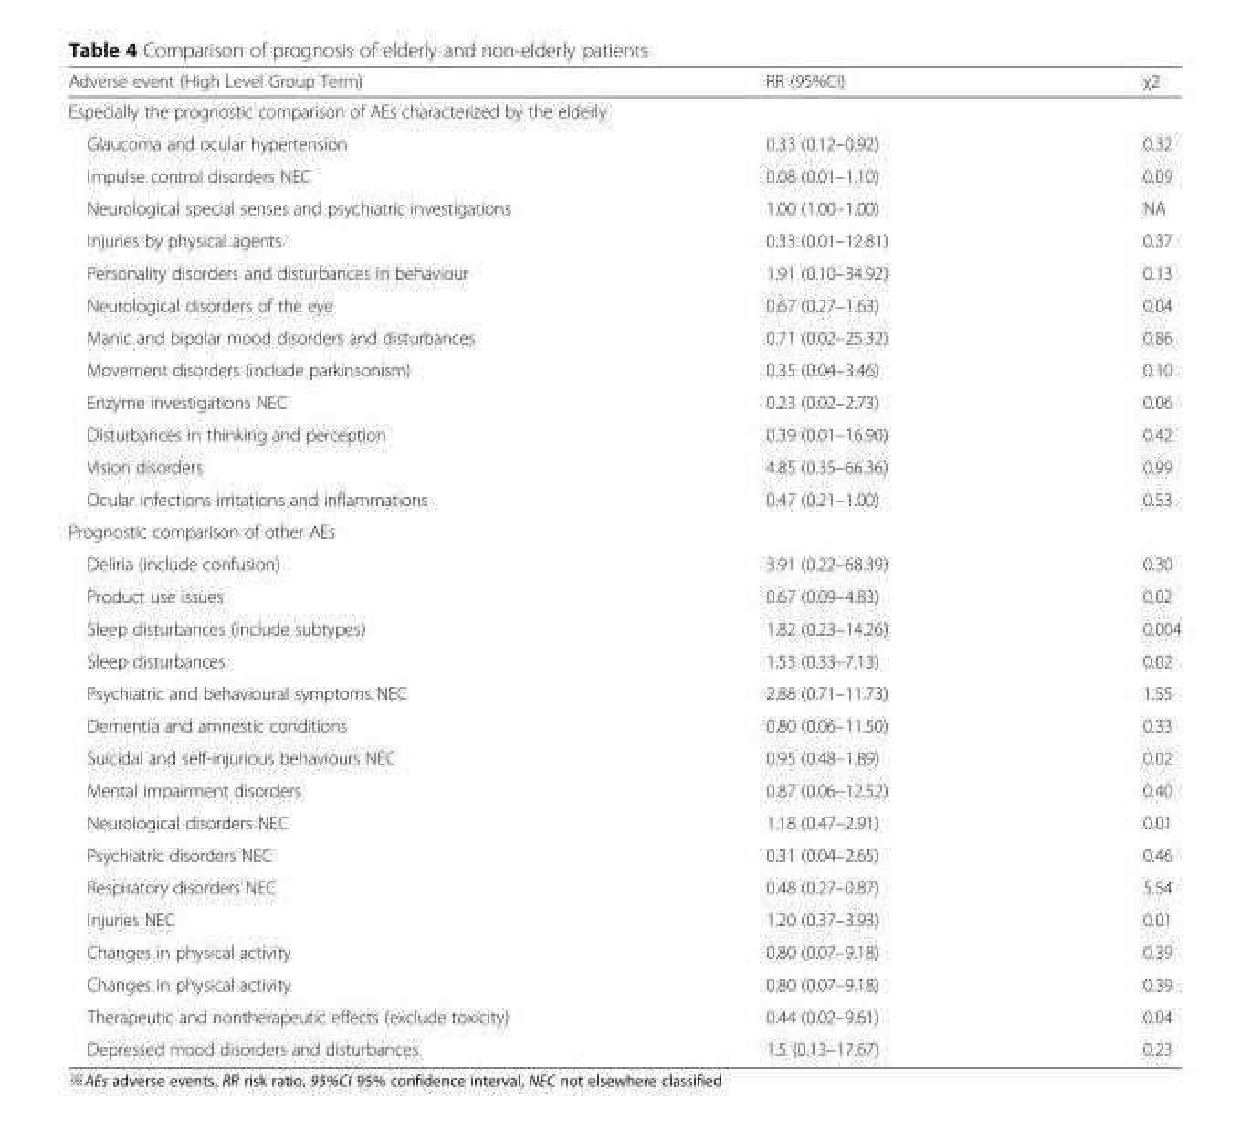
<table><thead><tr><td>Adverse event (High Level Group Term)</td><td>RR (95%CI)</td><td>χ2</td></tr></thead><tbody><tr><td colspan="3">Especially the prognostic comparison of AEs characterized by the elderly</td></tr><tr><td>Glaucoma and ocular hypertension</td><td>0.33 (0.12–0.92)</td><td>0.32</td></tr><tr><td>Impulse control disorders NEC</td><td>0.08 (0.01–1.10)</td><td>0.09</td></tr><tr><td>Neurological special senses and psychiatric investigations</td><td>1.00 (1.00–1.00)</td><td>NA</td></tr><tr><td>Injuries by physical agents</td><td>0.33 (0.01–12.81)</td><td>0.37</td></tr><tr><td>Personality disorders and disturbances in behaviour</td><td>1.91 (0.10–34.92)</td><td>0.13</td></tr><tr><td>Neurological disorders of the eye</td><td>0.67 (0.27–1.63)</td><td>0.04</td></tr><tr><td>Manic and bipolar mood disorders and disturbances</td><td>0.71 (0.02–25.32)</td><td>0.86</td></tr><tr><td>Movement disorders (include parkinsonism)</td><td>0.35 (0.04–3.46)</td><td>0.10</td></tr><tr><td>Enzyme investigations NEC</td><td>0.23 (0.02–2.73)</td><td>0.06</td></tr><tr><td>Disturbances in thinking and perception</td><td>0.39 (0.01–16.90)</td><td>0.42</td></tr><tr><td>Vision disorders</td><td>4.85 (0.35–66.36)</td><td>0.99</td></tr><tr><td>Ocular infections irritations and inflammations</td><td>0.47 (0.21–1.00)</td><td>0.53</td></tr><tr><td colspan="3">Prognostic comparison of other AEs</td></tr><tr><td>Deliria (include confusion)</td><td>3.91 (0.22–68.39)</td><td>0.30</td></tr><tr><td>Product use issues</td><td>0.67 (0.09–4.83)</td><td>0.02</td></tr><tr><td>Sleep disturbances (include subtypes)</td><td>1.82 (0.23–14.26)</td><td>0.004</td></tr><tr><td>Sleep disturbances</td><td>1.53 (0.33–7.13)</td><td>0.02</td></tr><tr><td>Psychiatric and behavioural symptoms NEC</td><td>2.88 (0.71–11.73)</td><td>1.55</td></tr><tr><td>Dementia and amnestic conditions</td><td>0.80 (0.06–11.50)</td><td>0.33</td></tr><tr><td>Suicidal and self-injurious behaviours NEC</td><td>0.95 (0.48–1.89)</td><td>0.02</td></tr><tr><td>Mental impairment disorders</td><td>0.87 (0.06–12.52)</td><td>0.40</td></tr><tr><td>Neurological disorders NEC</td><td>1.18 (0.47–2.91)</td><td>0.01</td></tr><tr><td>Psychiatric disorders NEC</td><td>0.31 (0.04–2.65)</td><td>0.46</td></tr><tr><td>Respiratory disorders NEC</td><td>0.48 (0.27–0.87)</td><td>5.54</td></tr><tr><td>Injuries NEC</td><td>1.20 (0.37–3.93)</td><td>0.01</td></tr><tr><td>Changes in physical activity</td><td>0.80 (0.07–9.18)</td><td>0.39</td></tr><tr><td>Changes in physical activity</td><td>0.80 (0.07–9.18)</td><td>0.39</td></tr><tr><td>Therapeutic and nontherapeutic effects (exclude toxicity)</td><td>0.44 (0.02–9.61)</td><td>0.04</td></tr><tr><td>Depressed mood disorders and disturbances</td><td>1.5 (0.13–17.67)</td><td>0.23</td></tr></tbody></table>